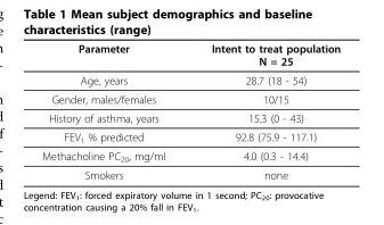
<table><thead><tr><td>Parameter</td><td>Intent to treat population N = 25</td></tr></thead><tbody><tr><td>Age, years</td><td>28.7 (18 - 54)</td></tr><tr><td>Gender, males/females</td><td>10/15</td></tr><tr><td>History of asthma, years</td><td>15.3 (0 - 43)</td></tr><tr><td>FEV<sub>1</sub> % predicted</td><td>92.8 (75.9 - 117.1)</td></tr><tr><td>Methacholine PC<sub>20</sub>, mg/ml</td><td>4.0 (0.3 - 14.4)</td></tr><tr><td>Smokers</td><td>none</td></tr></tbody></table>